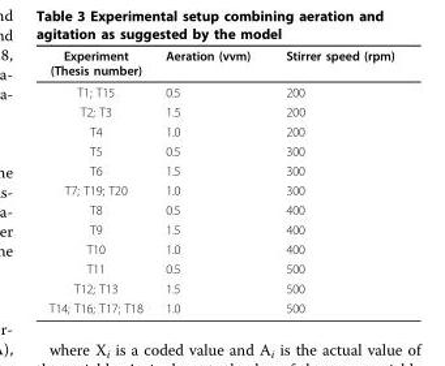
<table><thead><tr><td>Experiment (Thesis number)</td><td>Aeration (vvm)</td><td>Stirrer speed (rpm)</td></tr></thead><tbody><tr><td>T1; T15</td><td>0.5</td><td>200</td></tr><tr><td>T2; T3</td><td>1.5</td><td>200</td></tr><tr><td>T4</td><td>1.0</td><td>200</td></tr><tr><td>T5</td><td>0.5</td><td>300</td></tr><tr><td>T6</td><td>1.5</td><td>300</td></tr><tr><td>T7; T19; T20</td><td>1.0</td><td>300</td></tr><tr><td>T8</td><td>0.5</td><td>400</td></tr><tr><td>T9</td><td>1.5</td><td>400</td></tr><tr><td>T10</td><td>1.0</td><td>400</td></tr><tr><td>T11</td><td>0.5</td><td>500</td></tr><tr><td>T12; T13</td><td>1.5</td><td>500</td></tr><tr><td>T14; T16; T17; T18</td><td>1.0</td><td>500</td></tr></tbody></table>